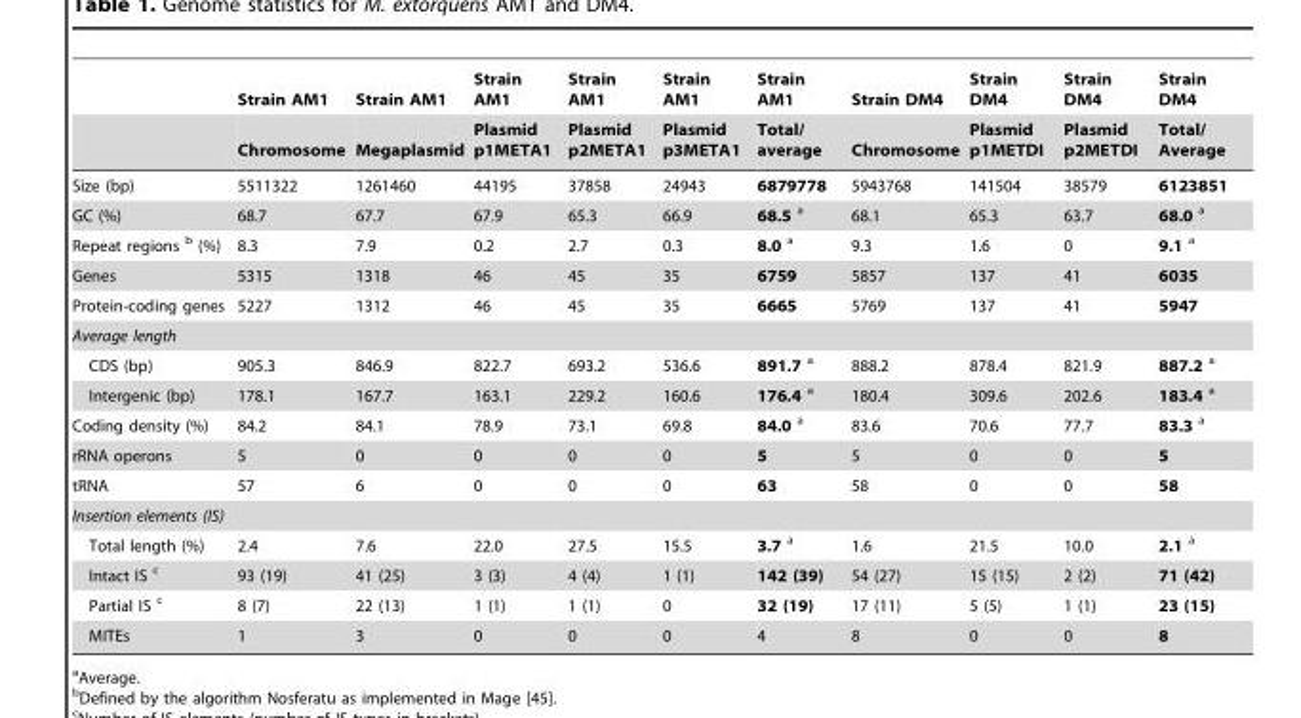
<table><thead><tr><td rowspan="2"></td><td rowspan="2">Strain AM1 Chromosome</td><td rowspan="2">Strain AM1 Megaplasmid</td><td rowspan="2">Strain AM1 Plasmid p1META1</td><td rowspan="2">Strain AM1 Plasmid p2META1</td><td rowspan="2">Strain AM1 Plasmid p3META1</td><td rowspan="2">Strain AM1 Total/ average</td><td rowspan="2">Strain DM4 Chromosome</td><td rowspan="2">Strain DM4 Plasmid p1METDI</td><td rowspan="2">Strain DM4 Plasmid p2METDI</td><td rowspan="2">Strain DM4 Total/ Average</td></tr><tr></tr></thead><tbody><tr><td>Size (bp)</td><td>5511322</td><td>1261460</td><td>44195</td><td>37858</td><td>24943</td><td>6879778</td><td>5943768</td><td>141504</td><td>38579</td><td>6123851</td></tr><tr><td>GC (%)</td><td>68.7</td><td>67.7</td><td>67.9</td><td>65.3</td><td>66.9</td><td>68.5 a</td><td>68.1</td><td>65.3</td><td>63.7</td><td>68.0 a</td></tr><tr><td>Repeat regions b (%)</td><td>8.3</td><td>7.9</td><td>0.2</td><td>2.7</td><td>0.3</td><td>8.0 a</td><td>9.3</td><td>1.6</td><td>0</td><td>9.1 a</td></tr><tr><td>Genes</td><td>5315</td><td>1318</td><td>46</td><td>45</td><td>35</td><td>6759</td><td>5857</td><td>137</td><td>41</td><td>6035</td></tr><tr><td>Protein-coding genes</td><td>5227</td><td>1312</td><td>46</td><td>45</td><td>35</td><td>6665</td><td>5769</td><td>137</td><td>41</td><td>5947</td></tr><tr><td colspan="11">Average length</td></tr><tr><td>CDS (bp)</td><td>905.3</td><td>846.9</td><td>822.7</td><td>693.2</td><td>536.6</td><td>891.7 a</td><td>888.2</td><td>878.4</td><td>821.9</td><td>887.2 a</td></tr><tr><td>Intergenic (bp)</td><td>178.1</td><td>167.7</td><td>163.1</td><td>229.2</td><td>160.6</td><td>176.4 a</td><td>180.4</td><td>309.6</td><td>202.6</td><td>183.4 a</td></tr><tr><td>Coding density (%)</td><td>84.2</td><td>84.1</td><td>78.9</td><td>73.1</td><td>69.8</td><td>84.0 a</td><td>83.6</td><td>70.6</td><td>77.7</td><td>83.3 a</td></tr><tr><td>rRNA operons</td><td>5</td><td>0</td><td>0</td><td>0</td><td>0</td><td>5</td><td>5</td><td>0</td><td>0</td><td>5</td></tr><tr><td>tRNA</td><td>57</td><td>6</td><td>0</td><td>0</td><td>0</td><td>63</td><td>58</td><td>0</td><td>0</td><td>58</td></tr><tr><td colspan="11">Insertion elements (IS)</td></tr><tr><td>Total length (%)</td><td>2.4</td><td>7.6</td><td>22.0</td><td>27.5</td><td>15.5</td><td>3.7 a</td><td>1.6</td><td>21.5</td><td>10.0</td><td>2.1 a</td></tr><tr><td>Intact IS c</td><td>93 (19)</td><td>41 (25)</td><td>3 (3)</td><td>4 (4)</td><td>1 (1)</td><td>142 (39)</td><td>54 (27)</td><td>15 (15)</td><td>2 (2)</td><td>71 (42)</td></tr><tr><td>Partial IS c</td><td>8 (7)</td><td>22 (13)</td><td>1 (1)</td><td>1 (1)</td><td>0</td><td>32 (19)</td><td>17 (11)</td><td>5 (5)</td><td>1 (1)</td><td>23 (15)</td></tr><tr><td>MITEs</td><td>1</td><td>3</td><td>0</td><td>0</td><td>0</td><td>4</td><td>8</td><td>0</td><td>0</td><td>8</td></tr></tbody></table>